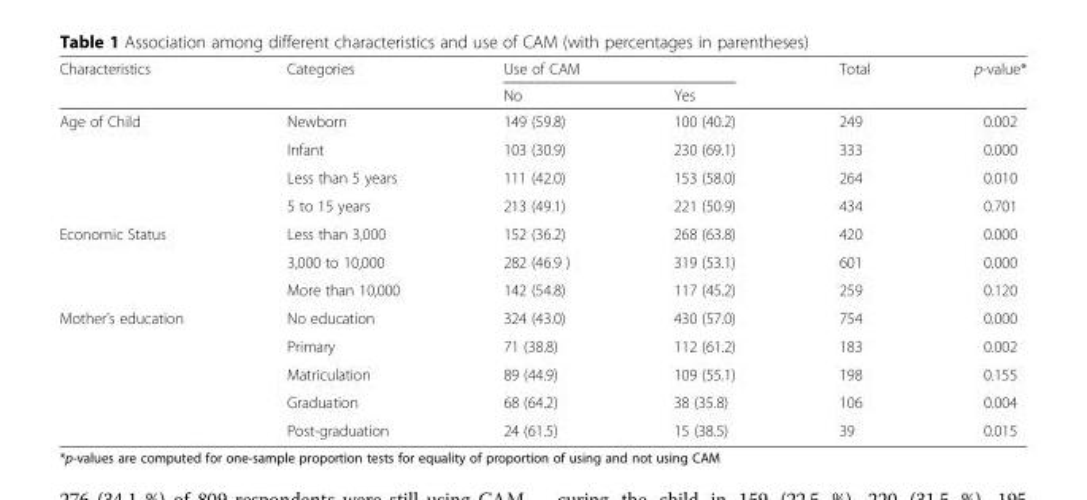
<table><thead><tr><td rowspan="2">Characteristics</td><td rowspan="2">Categories</td><td colspan="2">Use of CAM</td><td rowspan="2">Total</td><td rowspan="2">p-value*</td></tr><tr><td>No</td><td>Yes</td></tr></thead><tbody><tr><td rowspan="4">Age of Child</td><td>Newborn</td><td>149 (59.8)</td><td>100 (40.2)</td><td>249</td><td>0.002</td></tr><tr><td>Infant</td><td>103 (30.9)</td><td>230 (69.1)</td><td>333</td><td>0.000</td></tr><tr><td>Less than 5 years</td><td>111 (42.0)</td><td>153 (58.0)</td><td>264</td><td>0.010</td></tr><tr><td>5 to 15 years</td><td>213 (49.1)</td><td>221 (50.9)</td><td>434</td><td>0.701</td></tr><tr><td rowspan="3">Economic Status</td><td>Less than 3,000</td><td>152 (36.2)</td><td>268 (63.8)</td><td>420</td><td>0.000</td></tr><tr><td>3,000 to 10,000</td><td>282 (46.9 )</td><td>319 (53.1)</td><td>601</td><td>0.000</td></tr><tr><td>More than 10,000</td><td>142 (54.8)</td><td>117 (45.2)</td><td>259</td><td>0.120</td></tr><tr><td rowspan="5">Mother’s education</td><td>No education</td><td>324 (43.0)</td><td>430 (57.0)</td><td>754</td><td>0.000</td></tr><tr><td>Primary</td><td>71 (38.8)</td><td>112 (61.2)</td><td>183</td><td>0.002</td></tr><tr><td>Matriculation</td><td>89 (44.9)</td><td>109 (55.1)</td><td>198</td><td>0.155</td></tr><tr><td>Graduation</td><td>68 (64.2)</td><td>38 (35.8)</td><td>106</td><td>0.004</td></tr><tr><td>Post-graduation</td><td>24 (61.5)</td><td>15 (38.5)</td><td>39</td><td>0.015</td></tr></tbody></table>